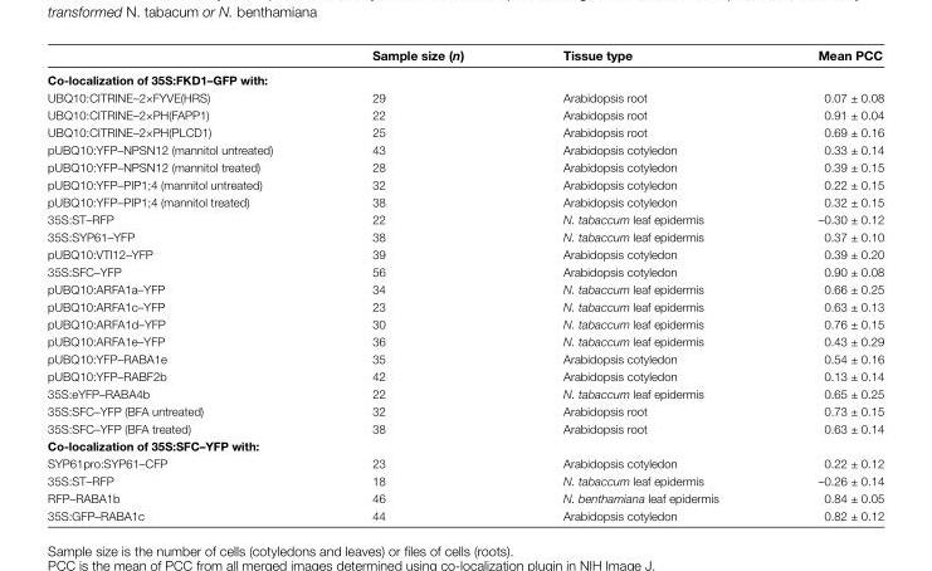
<table><thead><tr><td></td><td>Sample size (n)</td><td>Tissue type</td><td>Mean PCC</td></tr></thead><tbody><tr><td colspan="4">Co-localization of 35S:FKD1–GFP with:</td></tr><tr><td>UBQ10:CITRINE–2×FYVE(HRS)</td><td>29</td><td>Arabidopsis root</td><td>0.07 ± 0.08</td></tr><tr><td>UBQ10:CITRINE–2×PH(FAPP1)</td><td>22</td><td>Arabidopsis root</td><td>0.91 ± 0.04</td></tr><tr><td>UBQ10:CITRINE–2×PH(PLCD1)</td><td>25</td><td>Arabidopsis root</td><td>0.69 ± 0.16</td></tr><tr><td>pUBQ10:YFP–NPSN12 (mannitol untreated)</td><td>43</td><td>Arabidopsis cotyledon</td><td>0.33 ± 0.14</td></tr><tr><td>pUBQ10:YFP–NPSN12 (mannitol treated)</td><td>28</td><td>Arabidopsis cotyledon</td><td>0.39 ± 0.15</td></tr><tr><td>pUBQ10:YFP–PIP1;4 (mannitol untreated)</td><td>32</td><td>Arabidopsis cotyledon</td><td>0.22 ± 0.15</td></tr><tr><td>pUBQ10:YFP–PIP1;4 (mannitol treated)</td><td>38</td><td>Arabidopsis cotyledon</td><td>0.32 ± 0.15</td></tr><tr><td>35S:ST–RFP</td><td>22</td><td>N. tabaccum leaf epidermis</td><td>–0.30 ± 0.12</td></tr><tr><td>35S:SYP61–YFP</td><td>38</td><td>N. tabaccum leaf epidermis</td><td>0.37 ± 0.10</td></tr><tr><td>pUBQ10:VTI12–YFP</td><td>39</td><td>Arabidopsis cotyledon</td><td>0.39 ± 0.20</td></tr><tr><td>35S:SFC–YFP</td><td>56</td><td>Arabidopsis cotyledon</td><td>0.90 ± 0.08</td></tr><tr><td>pUBQ10:ARFA1a–YFP</td><td>34</td><td>N. tabaccum leaf epidermis</td><td>0.66 ± 0.25</td></tr><tr><td>pUBQ10:ARFA1c–YFP</td><td>23</td><td>N. tabaccum leaf epidermis</td><td>0.63 ± 0.13</td></tr><tr><td>pUBQ10:ARFA1d–YFP</td><td>30</td><td>N. tabaccum leaf epidermis</td><td>0.76 ± 0.15</td></tr><tr><td>pUBQ10:ARFA1e–YFP</td><td>36</td><td>N. tabaccum leaf epidermis</td><td>0.43 ± 0.29</td></tr><tr><td>pUBQ10:YFP–RABA1e</td><td>35</td><td>Arabidopsis cotyledon</td><td>0.54 ± 0.16</td></tr><tr><td>pUBQ10:YFP–RABF2b</td><td>42</td><td>Arabidopsis cotyledon</td><td>0.13 ± 0.14</td></tr><tr><td>35S:eYFP–RABA4b</td><td>22</td><td>N. tabaccum leaf epidermis</td><td>0.65 ± 0.25</td></tr><tr><td>35S:SFC–YFP (BFA untreated)</td><td>32</td><td>Arabidopsis root</td><td>0.73 ± 0.15</td></tr><tr><td>35S:SFC–YFP (BFA treated)</td><td>38</td><td>Arabidopsis root</td><td>0.63 ± 0.14</td></tr><tr><td colspan="4">Co-localization of 35S:SFC–YFP with:</td></tr><tr><td>SYP61pro:SYP61–CFP</td><td>23</td><td>Arabidopsis cotyledon</td><td>0.22 ± 0.12</td></tr><tr><td>35S:ST–RFP</td><td>18</td><td>N. tabaccum leaf epidermis</td><td>–0.26 ± 0.14</td></tr><tr><td>RFP–RABA1b</td><td>46</td><td>N. benthamiana leaf epidermis</td><td>0.84 ± 0.05</td></tr><tr><td>35S:GFP–RABA1c</td><td>44</td><td>Arabidopsis cotyledon</td><td>0.82 ± 0.12</td></tr></tbody></table>